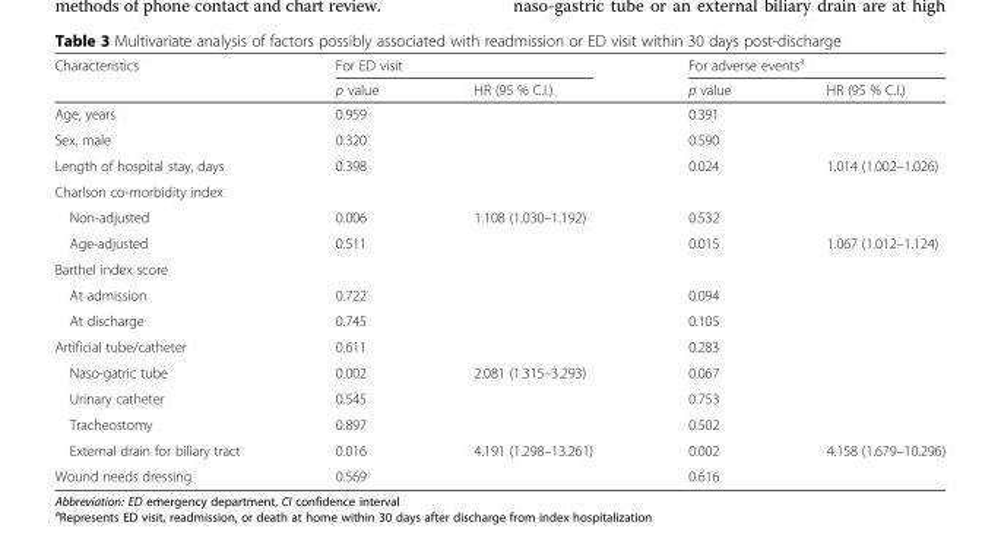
<table><thead><tr><td rowspan="2">Characteristics</td><td colspan="2">For ED visit</td><td colspan="2">For adverse events<sup>a</sup></td></tr><tr><td>p value</td><td>HR (95 % C.I.)</td><td>p value</td><td>HR (95 % C.I.)</td></tr></thead><tbody><tr><td>Age, years</td><td>0.959</td><td></td><td>0.391</td><td></td></tr><tr><td>Sex, male</td><td>0.320</td><td></td><td>0.590</td><td></td></tr><tr><td>Length of hospital stay, days</td><td>0.398</td><td></td><td>0.024</td><td>1.014 (1.002–1.026)</td></tr><tr><td colspan="5">Charlson co-morbidity index</td></tr><tr><td>Non-adjusted</td><td>0.006</td><td>1.108 (1.030–1.192)</td><td>0.532</td><td></td></tr><tr><td>Age-adjusted</td><td>0.511</td><td></td><td>0.015</td><td>1.067 (1.012–1.124)</td></tr><tr><td colspan="5">Barthel index score</td></tr><tr><td>At admission</td><td>0.722</td><td></td><td>0.094</td><td></td></tr><tr><td>At discharge</td><td>0.745</td><td></td><td>0.105</td><td></td></tr><tr><td>Artificial tube/catheter</td><td>0.611</td><td></td><td>0.283</td><td></td></tr><tr><td>Naso-gatric tube</td><td>0.002</td><td>2.081 (1.315–3.293)</td><td>0.067</td><td></td></tr><tr><td>Urinary catheter</td><td>0.545</td><td></td><td>0.753</td><td></td></tr><tr><td>Tracheostomy</td><td>0.897</td><td></td><td>0.502</td><td></td></tr><tr><td>External drain for biliary tract</td><td>0.016</td><td>4.191 (1.298–13.261)</td><td>0.002</td><td>4.158 (1.679–10.296)</td></tr><tr><td>Wound needs dressing</td><td>0.569</td><td></td><td>0.616</td><td></td></tr></tbody></table>